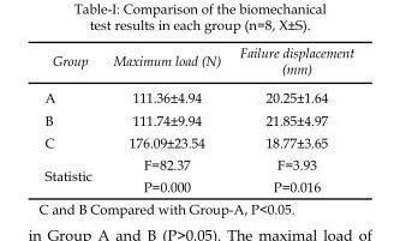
<table><thead><tr><td>Group</td><td>Maximum load (N)</td><td>Failure displacement (mm)</td></tr></thead><tbody><tr><td>A</td><td>111.36±4.94</td><td>20.25±1.64</td></tr><tr><td>B</td><td>111.74±9.94</td><td>21.85±4.97</td></tr><tr><td>C</td><td>176.09±23.54</td><td>18.77±3.65</td></tr><tr><td rowspan="2">Statistic</td><td>F=82.37</td><td>F=3.93</td></tr><tr><td>P=0.000</td><td>P=0.016</td></tr></tbody></table>